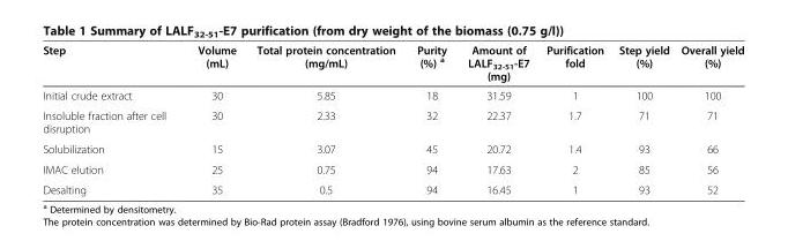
<table><thead><tr><td>Step</td><td>Volume (mL)</td><td>Total protein concentration (mg/mL)</td><td>Purity (%) <sup>a</sup></td><td>Amount of LALF<sub>32-51</sub>-E7 (mg)</td><td>Purification fold</td><td>Step yield (%)</td><td>Overall yield (%)</td></tr></thead><tbody><tr><td>Initial crude extract</td><td>30</td><td>5.85</td><td>18</td><td>31.59</td><td>1</td><td>100</td><td>100</td></tr><tr><td>Insoluble fraction after cell disruption</td><td>30</td><td>2.33</td><td>32</td><td>22.37</td><td>1.7</td><td>71</td><td>71</td></tr><tr><td>Solubilization</td><td>15</td><td>3.07</td><td>45</td><td>20.72</td><td>1.4</td><td>93</td><td>66</td></tr><tr><td>IMAC elution</td><td>25</td><td>0.75</td><td>94</td><td>17.63</td><td>2</td><td>85</td><td>56</td></tr><tr><td>Desalting</td><td>35</td><td>0.5</td><td>94</td><td>16.45</td><td>1</td><td>93</td><td>52</td></tr></tbody></table>